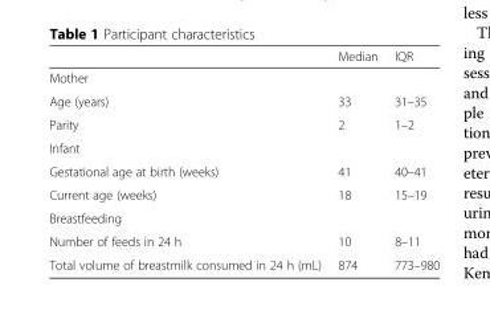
<table><thead><tr><td></td><td>Median</td><td>IQR</td></tr></thead><tbody><tr><td colspan="3">Mother</td></tr><tr><td>Age (years)</td><td>33</td><td>31–35</td></tr><tr><td>Parity</td><td>2</td><td>1–2</td></tr><tr><td colspan="3">Infant</td></tr><tr><td>Gestational age at birth (weeks)</td><td>41</td><td>40–41</td></tr><tr><td>Current age (weeks)</td><td>18</td><td>15–19</td></tr><tr><td colspan="3">Breastfeeding</td></tr><tr><td>Number of feeds in 24 h</td><td>10</td><td>8–11</td></tr><tr><td>Total volume of breastmilk consumed in 24 h (mL)</td><td>874</td><td>773–980</td></tr></tbody></table>